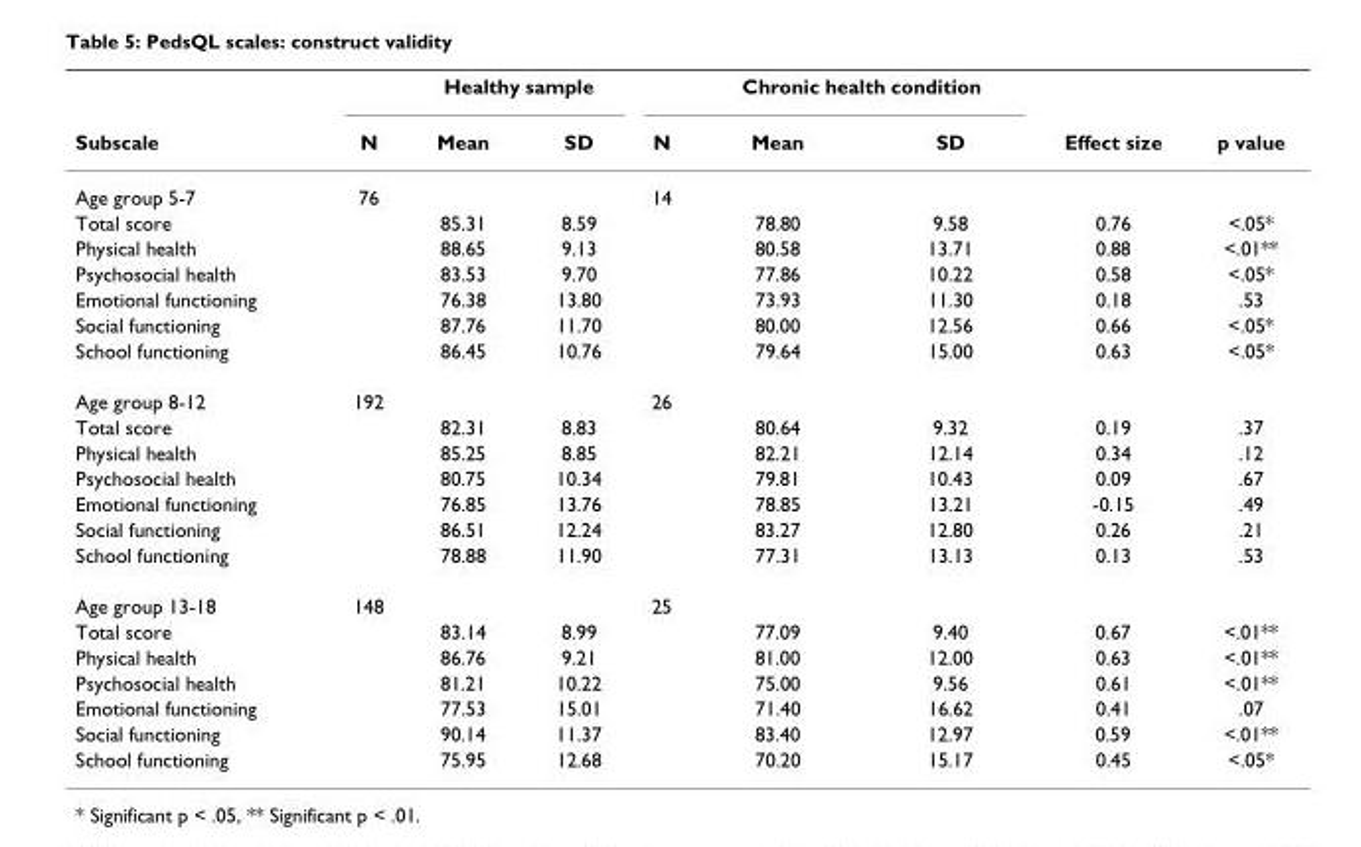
<table><thead><tr><td rowspan="2">Subscale</td><td rowspan="2">N</td><td colspan="2">Healthy sample</td><td rowspan="2">N</td><td colspan="2">Chronic health condition</td><td rowspan="2">Effect size</td><td rowspan="2">p value</td></tr><tr><td>Mean</td><td>SD</td><td>Mean</td><td>SD</td></tr></thead><tbody><tr><td>Age group 5-7</td><td>76</td><td></td><td></td><td>14</td><td></td><td></td><td></td><td></td></tr><tr><td>Total score</td><td></td><td>85.31</td><td>8.59</td><td></td><td>78.80</td><td>9.58</td><td>0.76</td><td>&lt;.05*</td></tr><tr><td>Physical health</td><td></td><td>88.65</td><td>9.13</td><td></td><td>80.58</td><td>13.71</td><td>0.88</td><td>&lt;.01**</td></tr><tr><td>Psychosocial health</td><td></td><td>83.53</td><td>9.70</td><td></td><td>77.86</td><td>10.22</td><td>0.58</td><td>&lt;.05*</td></tr><tr><td>Emotional functioning</td><td></td><td>76.38</td><td>13.80</td><td></td><td>73.93</td><td>11.30</td><td>0.18</td><td>.53</td></tr><tr><td>Social functioning</td><td></td><td>87.76</td><td>11.70</td><td></td><td>80.00</td><td>12.56</td><td>0.66</td><td>&lt;.05*</td></tr><tr><td>School functioning</td><td></td><td>86.45</td><td>10.76</td><td></td><td>79.64</td><td>15.00</td><td>0.63</td><td>&lt;.05*</td></tr><tr><td>Age group 8-12</td><td>192</td><td></td><td></td><td>26</td><td></td><td></td><td></td><td></td></tr><tr><td>Total score</td><td></td><td>82.31</td><td>8.83</td><td></td><td>80.64</td><td>9.32</td><td>0.19</td><td>.37</td></tr><tr><td>Physical health</td><td></td><td>85.25</td><td>8.85</td><td></td><td>82.21</td><td>12.14</td><td>0.34</td><td>.12</td></tr><tr><td>Psychosocial health</td><td></td><td>80.75</td><td>10.34</td><td></td><td>79.81</td><td>10.43</td><td>0.09</td><td>.67</td></tr><tr><td>Emotional functioning</td><td></td><td>76.85</td><td>13.76</td><td></td><td>78.85</td><td>13.21</td><td>-0.15</td><td>.49</td></tr><tr><td>Social functioning</td><td></td><td>86.51</td><td>12.24</td><td></td><td>83.27</td><td>12.80</td><td>0.26</td><td>.21</td></tr><tr><td>School functioning</td><td></td><td>78.88</td><td>11.90</td><td></td><td>77.31</td><td>13.13</td><td>0.13</td><td>.53</td></tr><tr><td>Age group 13-18</td><td>148</td><td></td><td></td><td>25</td><td></td><td></td><td></td><td></td></tr><tr><td>Total score</td><td></td><td>83.14</td><td>8.99</td><td></td><td>77.09</td><td>9.40</td><td>0.67</td><td>&lt;.01**</td></tr><tr><td>Physical health</td><td></td><td>86.76</td><td>9.21</td><td></td><td>81.00</td><td>12.00</td><td>0.63</td><td>&lt;.01**</td></tr><tr><td>Psychosocial health</td><td></td><td>81.21</td><td>10.22</td><td></td><td>75.00</td><td>9.56</td><td>0.61</td><td>&lt;.01**</td></tr><tr><td>Emotional functioning</td><td></td><td>77.53</td><td>15.01</td><td></td><td>71.40</td><td>16.62</td><td>0.41</td><td>.07</td></tr><tr><td>Social functioning</td><td></td><td>90.14</td><td>11.37</td><td></td><td>83.40</td><td>12.97</td><td>0.59</td><td>&lt;.01**</td></tr><tr><td>School functioning</td><td></td><td>75.95</td><td>12.68</td><td></td><td>70.20</td><td>15.17</td><td>0.45</td><td>&lt;.05*</td></tr></tbody></table>